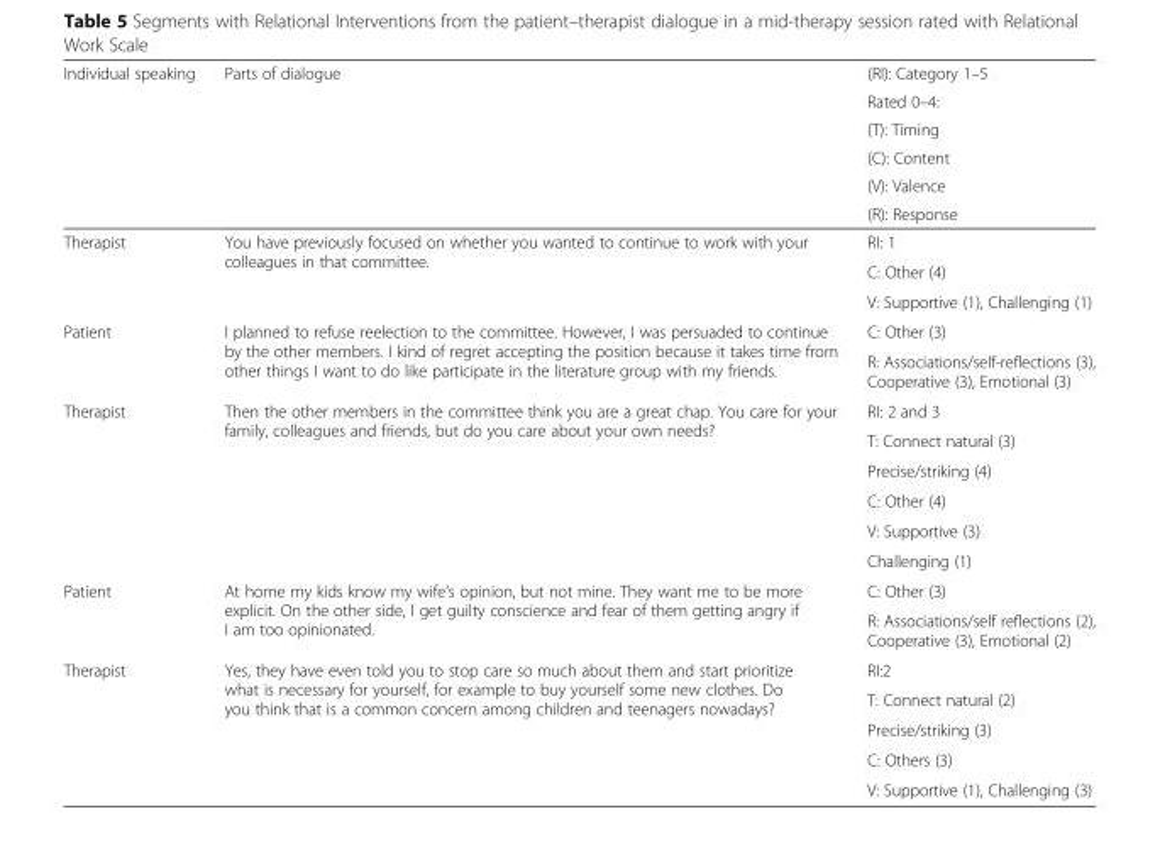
<table><thead><tr><td rowspan="6">Individual speaking</td><td rowspan="6">Parts of dialogue</td><td rowspan="6">(RI): Category 1–5 Rated 0–4: (T): Timing (C): Content (V): Valence (R): Response</td></tr><tr></tr><tr></tr><tr></tr><tr></tr><tr></tr></thead><tbody><tr><td rowspan="3">Therapist</td><td rowspan="3">You have previously focused on whether you wanted to continue to work with your colleagues in that committee.</td><td>RI: 1</td></tr><tr><td>C: Other (4)</td></tr><tr><td>V: Supportive (1), Challenging (1)</td></tr><tr><td rowspan="2">Patient</td><td rowspan="2">I planned to refuse reelection to the committee. However, I was persuaded to continue by the other members. I kind of regret accepting the position because it takes time from other things I want to do like participate in the literature group with my friends.</td><td>C: Other (3)</td></tr><tr><td>R: Associations/self-reflections (3), Cooperative (3), Emotional (3)</td></tr><tr><td rowspan="6">Therapist</td><td rowspan="6">Then the other members in the committee think you are a great chap. You care for your family, colleagues and friends, but do you care about your own needs?</td><td>RI: 2 and 3</td></tr><tr><td>T: Connect natural (3)</td></tr><tr><td>Precise/striking (4)</td></tr><tr><td>C: Other (4)</td></tr><tr><td>V: Supportive (3)</td></tr><tr><td>Challenging (1)</td></tr><tr><td rowspan="2">Patient</td><td rowspan="2">At home my kids know my wife’s opinion, but not mine. They want me to be more explicit. On the other side, I get guilty conscience and fear of them getting angry if I am too opinionated.</td><td>C: Other (3)</td></tr><tr><td>R: Associations/self reflections (2), Cooperative (3), Emotional (2)</td></tr><tr><td rowspan="5">Therapist</td><td rowspan="5">Yes, they have even told you to stop care so much about them and start prioritize what is necessary for yourself, for example to buy yourself some new clothes. Do you think that is a common concern among children and teenagers nowadays?</td><td>RI:2</td></tr><tr><td>T: Connect natural (2)</td></tr><tr><td>Precise/striking (3)</td></tr><tr><td>C: Others (3)</td></tr><tr><td>V: Supportive (1), Challenging (3)</td></tr></tbody></table>